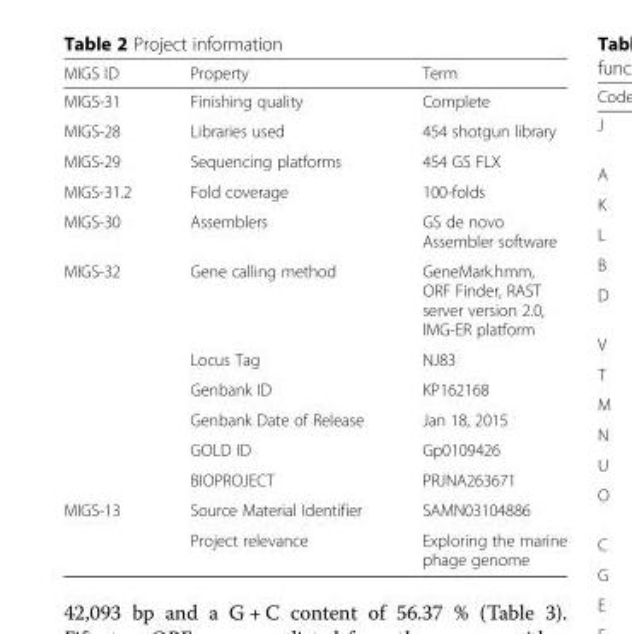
<table><thead><tr><td>MIGS ID</td><td>Property</td><td>Term</td></tr></thead><tbody><tr><td>MIGS-31</td><td>Finishing quality</td><td>Complete</td></tr><tr><td>MIGS-28</td><td>Libraries used</td><td>454 shotgun library</td></tr><tr><td>MIGS-29</td><td>Sequencing platforms</td><td>454 GS FLX</td></tr><tr><td>MIGS-31.2</td><td>Fold coverage</td><td>100-folds</td></tr><tr><td>MIGS-30</td><td>Assemblers</td><td>GS de novo Assembler software</td></tr><tr><td rowspan="6">MIGS-32</td><td>Gene calling method</td><td>GeneMark.hmm, ORF Finder, RAST server version 2.0, IMG-ER platform</td></tr><tr><td>Locus Tag</td><td>NJ83</td></tr><tr><td>Genbank ID</td><td>KP162168</td></tr><tr><td>Genbank Date of Release</td><td>Jan 18, 2015</td></tr><tr><td>GOLD ID</td><td>Gp0109426</td></tr><tr><td>BIOPROJECT</td><td>PRJNA263671</td></tr><tr><td rowspan="2">MIGS-13</td><td>Source Material Identifier</td><td>SAMN03104886</td></tr><tr><td>Project relevance</td><td>Exploring the marine phage genome</td></tr></tbody></table>